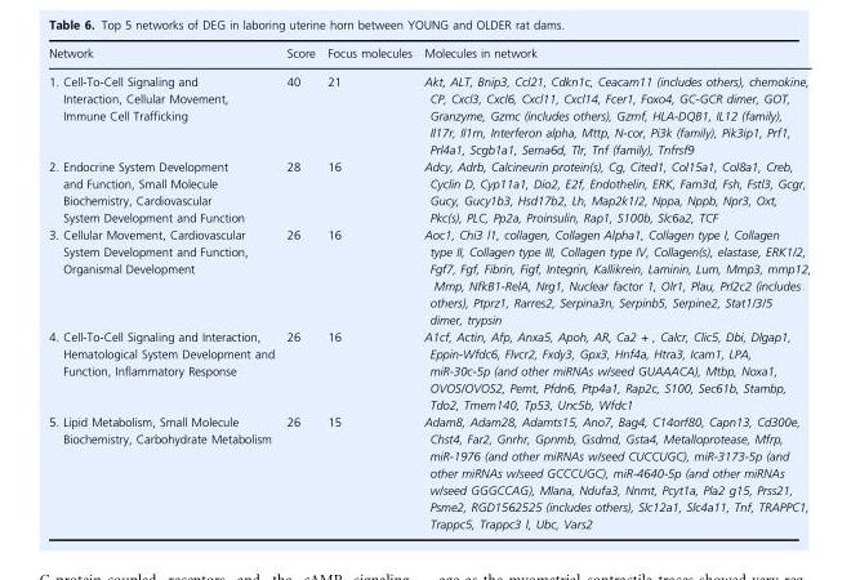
<table><thead><tr><td>Network</td><td>Score</td><td>Focus molecules</td><td>Molecules in network</td></tr></thead><tbody><tr><td>1. Cell-To-Cell Signaling and Interaction, Cellular Movement, Immune Cell Trafficking</td><td>40</td><td>21</td><td>Akt, ALT, Bnip3, Ccl21, Cdkn1c, Ceacam11 (includes others), chemokine, CP, Cxcl3, Cxcl6, Cxcl11, Cxcl14, Fcer1, Foxo4, GC-GCR dimer, GOT, Granzyme, Gzmc (includes others), Gzmf, HLA-DQB1, IL12 (family), Il17r, Il1rn, Interferon alpha, Mttp, N-cor, Pi3k (family), Pik3ip1, Prf1, Prl4a1, Scgb1a1, Sema6d, Tlr, Tnf (family), Tnfrsf9</td></tr><tr><td>2. Endocrine System Development and Function, Small Molecule Biochemistry, Cardiovascular System Development and Function</td><td>28</td><td>16</td><td>Adcy, Adrb, Calcineurin protein(s), Cg, Cited1, Col15a1, Col8a1, Creb, Cyclin D, Cyp11a1, Dio2, E2f, Endothelin, ERK, Fam3d, Fsh, Fstl3, Gcgr, Gucy, Gucy1b3, Hsd17b2, Lh, Map2k1/2, Nppa, Nppb, Npr3, Oxt, Pkc(s), PLC, Pp2a, Proinsulin, Rap1, S100b, Slc6a2, TCF</td></tr><tr><td>3. Cellular Movement, Cardiovascular System Development and Function, Organismal Development</td><td>26</td><td>16</td><td>Aoc1, Chi3 l1, collagen, Collagen Alpha1, Collagen type I, Collagen type II, Collagen type III, Collagen type IV, Collagen(s), elastase, ERK1/2, Fgf7, Fgf, Fibrin, Figf, Integrin, Kallikrein, Laminin, Lum, Mmp3, mmp12, Mmp, NfkB1-RelA, Nrg1, Nuclear factor 1, Olr1, Plau, Prl2c2 (includes others), Ptprz1, Rarres2, Serpina3n, Serpinb5, Serpine2, Stat1/3/5 dimer, trypsin</td></tr><tr><td>4. Cell-To-Cell Signaling and Interaction, Hematological System Development and Function, Inflammatory Response</td><td>26</td><td>16</td><td>A1cf, Actin, Afp, Anxa5, Apoh, AR, Ca2 + , Calcr, Clic5, Dbi, Dlgap1, Eppin-Wfdc6, Flvcr2, Fxdy3, Gpx3, Hnf4a, Htra3, Icam1, LPA, miR-30c-5p (and other miRNAs w/seed GUAAACA), Mtbp, Noxa1, OVOS/OVOS2, Pemt, Pfdn6, Ptp4a1, Rap2c, S100, Sec61b, Stambp, Tdo2, Tmem140, Tp53, Unc5b, Wfdc1</td></tr><tr><td>5. Lipid Metabolism, Small Molecule Biochemistry, Carbohydrate Metabolism</td><td>26</td><td>15</td><td>Adam8, Adam28, Adamts15, Ano7, Bag4, C14orf80, Capn13, Cd300e, Chst4, Far2, Gnrhr, Gpnmb, Gsdmd, Gsta4, Metalloprotease, Mfrp, miR-1976 (and other miRNAs w/seed CUCCUGC), miR-3173-5p (and other miRNAs w/seed GCCCUGC), miR-4640-5p (and other miRNAs w/seed GGGCCAG), Mlana, Ndufa3, Nnmt, Pcyt1a, Pla2 g15, Prss21, Psme2, RGD1562525 (includes others), Slc12a1, Slc4a11, Tnf, TRAPPC1, Trappc5, Trappc3 l, Ubc, Vars2</td></tr></tbody></table>